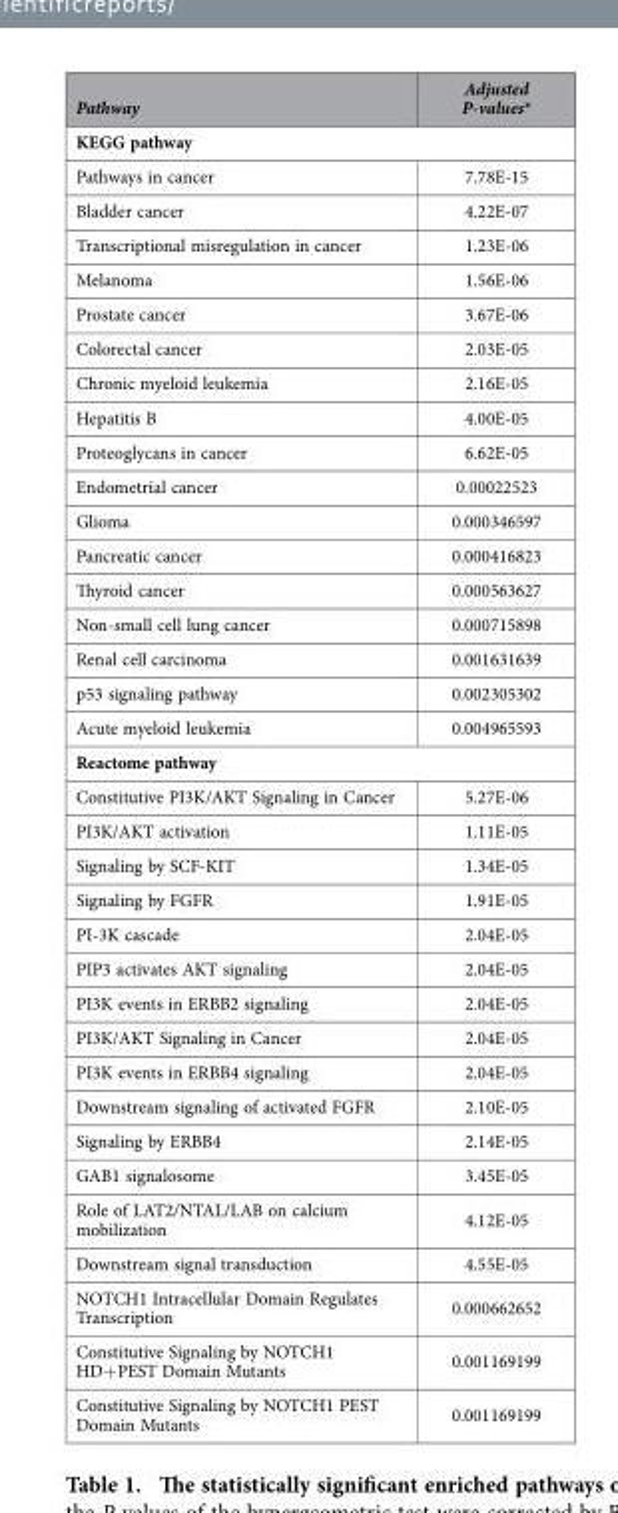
<table><thead><tr><td>Pathway</td><td>Adjusted P-values*</td></tr></thead><tbody><tr><td colspan="2">KEGG pathway</td></tr><tr><td>Pathways in cancer</td><td>7.78E-15</td></tr><tr><td>Bladder cancer</td><td>4.22E-07</td></tr><tr><td>Transcriptional misregulation in cancer</td><td>1.23E-06</td></tr><tr><td>Melanoma</td><td>1.56E-06</td></tr><tr><td>Prostate cancer</td><td>3.67E-06</td></tr><tr><td>Colorectal cancer</td><td>2.03E-05</td></tr><tr><td>Chronic myeloid leukemia</td><td>2.16E-05</td></tr><tr><td>Hepatitis B</td><td>4.00E-05</td></tr><tr><td>Proteoglycans in cancer</td><td>6.62E-05</td></tr><tr><td>Endometrial cancer</td><td>0.00022523</td></tr><tr><td>Glioma</td><td>0.000346597</td></tr><tr><td>Pancreatic cancer</td><td>0.000416823</td></tr><tr><td>Thyroid cancer</td><td>0.000563627</td></tr><tr><td>Non-small cell lung cancer</td><td>0.000715898</td></tr><tr><td>Renal cell carcinoma</td><td>0.001631639</td></tr><tr><td>p53 signaling pathway</td><td>0.002305302</td></tr><tr><td>Acute myeloid leukemia</td><td>0.004965593</td></tr><tr><td colspan="2">Reactome pathway</td></tr><tr><td>Constitutive PI3K/AKT Signaling in Cancer</td><td>5.27E-06</td></tr><tr><td>PI3K/AKT activation</td><td>1.11E-05</td></tr><tr><td>Signaling by SCF-KIT</td><td>1.34E-05</td></tr><tr><td>Signaling by FGFR</td><td>1.91E-05</td></tr><tr><td>PI-3K cascade</td><td>2.04E-05</td></tr><tr><td>PIP3 activates AKT signaling</td><td>2.04E-05</td></tr><tr><td>PI3K events in ERBB2 signaling</td><td>2.04E-05</td></tr><tr><td>PI3K/AKT Signaling in Cancer</td><td>2.04E-05</td></tr><tr><td>PI3K events in ERBB4 signaling</td><td>2.04E-05</td></tr><tr><td>Downstream signaling of activated FGFR</td><td>2.10E-05</td></tr><tr><td>Signaling by ERBB4</td><td>2.14E-05</td></tr><tr><td>GAB1 signalosome</td><td>3.45E-05</td></tr><tr><td>Role of LAT2/NTAL/LAB on calcium mobilization</td><td>4.12E-05</td></tr><tr><td>Downstream signal transduction</td><td>4.55E-05</td></tr><tr><td>NOTCH1 Intracellular Domain Regulates Transcription</td><td>0.000662652</td></tr><tr><td>Constitutive Signaling by NOTCH1 HD+ PEST Domain Mutants</td><td>0.001169199</td></tr><tr><td>Constitutive Signaling by NOTCH1 PEST Domain Mutants</td><td>0.001169199</td></tr></tbody></table>